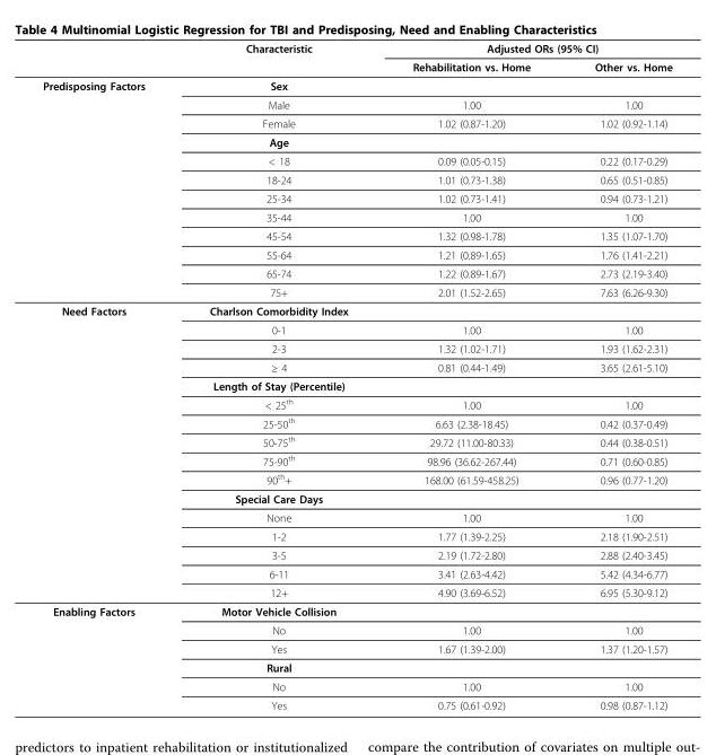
<table><thead><tr><td rowspan="2"></td><td rowspan="2">Characteristic</td><td colspan="2">Adjusted ORs (95% CI)</td></tr><tr><td>Rehabilitation vs. Home</td><td>Other vs. Home</td></tr></thead><tbody><tr><td rowspan="12">Predisposing Factors</td><td>Sex</td><td></td><td></td></tr><tr><td>Male</td><td>1.00</td><td>1.00</td></tr><tr><td>Female</td><td>1.02 (0.87-1.20)</td><td>1.02 (0.92-1.14)</td></tr><tr><td>Age</td><td></td><td></td></tr><tr><td>&lt; 18</td><td>0.09 (0.05-0.15)</td><td>0.22 (0.17-0.29)</td></tr><tr><td>18-24</td><td>1.01 (0.73-1.38)</td><td>0.65 (0.51-0.85)</td></tr><tr><td>25-34</td><td>1.02 (0.73-1.41)</td><td>0.94 (0.73-1.21)</td></tr><tr><td>35-44</td><td>1.00</td><td>1.00</td></tr><tr><td>45-54</td><td>1.32 (0.98-1.78)</td><td>1.35 (1.07-1.70)</td></tr><tr><td>55-64</td><td>1.21 (0.89-1.65)</td><td>1.76 (1.41-2.21)</td></tr><tr><td>65-74</td><td>1.22 (0.89-1.67)</td><td>2.73 (2.19-3.40)</td></tr><tr><td>75+</td><td>2.01 (1.52-2.65)</td><td>7.63 (6.26-9.30)</td></tr><tr><td rowspan="16">Need Factors</td><td>Charlson Comorbidity Index</td><td></td><td></td></tr><tr><td>0-1</td><td>1.00</td><td>1.00</td></tr><tr><td>2-3</td><td>1.32 (1.02-1.71)</td><td>1.93 (1.62-2.31)</td></tr><tr><td>≥ 4</td><td>0.81 (0.44-1.49)</td><td>3.65 (2.61-5.10)</td></tr><tr><td>Length of Stay (Percentile)</td><td></td><td></td></tr><tr><td>&lt; 25<sup>th</sup></td><td>1.00</td><td>1.00</td></tr><tr><td>25-50<sup>th</sup></td><td>6.63 (2.38-18.45)</td><td>0.42 (0.37-0.49)</td></tr><tr><td>50-75<sup>th</sup></td><td>29.72 (11.00-80.33)</td><td>0.44 (0.38-0.51)</td></tr><tr><td>75-90<sup>th</sup></td><td>98.96 (36.62-267.44)</td><td>0.71 (0.60-0.85)</td></tr><tr><td>90<sup>th</sup>+</td><td>168.00 (61.59-458.25)</td><td>0.96 (0.77-1.20)</td></tr><tr><td>Special Care Days</td><td></td><td></td></tr><tr><td>None</td><td>1.00</td><td>1.00</td></tr><tr><td>1-2</td><td>1.77 (1.39-2.25)</td><td>2.18 (1.90-2.51)</td></tr><tr><td>3-5</td><td>2.19 (1.72-2.80)</td><td>2.88 (2.40-3.45)</td></tr><tr><td>6-11</td><td>3.41 (2.63-4.42)</td><td>5.42 (4.34-6.77)</td></tr><tr><td>12+</td><td>4.90 (3.69-6.52)</td><td>6.95 (5.30-9.12)</td></tr><tr><td rowspan="6">Enabling Factors</td><td>Motor Vehicle Collision</td><td></td><td></td></tr><tr><td>No</td><td>1.00</td><td>1.00</td></tr><tr><td>Yes</td><td>1.67 (1.39-2.00)</td><td>1.37 (1.20-1.57)</td></tr><tr><td>Rural</td><td></td><td></td></tr><tr><td>No</td><td>1.00</td><td>1.00</td></tr><tr><td>Yes</td><td>0.75 (0.61-0.92)</td><td>0.98 (0.87-1.12)</td></tr></tbody></table>